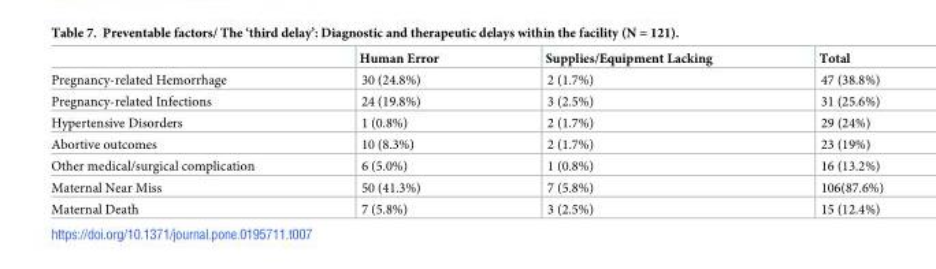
<table><thead><tr><td></td><td>Human Error</td><td>Supplies/Equipment Lacking</td><td>Total</td></tr></thead><tbody><tr><td>Pregnancy-related Hemorrhage</td><td>30 (24.8%)</td><td>2 (1.7%)</td><td>47 (38.8%)</td></tr><tr><td>Pregnancy-related Infections</td><td>24 (19.8%)</td><td>3 (2.5%)</td><td>31 (25.6%)</td></tr><tr><td>Hypertensive Disorders</td><td>1 (0.8%)</td><td>2 (1.7%)</td><td>29 (24%)</td></tr><tr><td>Abortive outcomes</td><td>10 (8.3%)</td><td>2 (1.7%)</td><td>23 (19%)</td></tr><tr><td>Other medical/surgical complication</td><td>6 (5.0%)</td><td>1 (0.8%)</td><td>16 (13.2%)</td></tr><tr><td>Maternal Near Miss</td><td>50 (41.3%)</td><td>7 (5.8%)</td><td>106(87.6%)</td></tr><tr><td>Maternal Death</td><td>7 (5.8%)</td><td>3 (2.5%)</td><td>15 (12.4%)</td></tr></tbody></table>